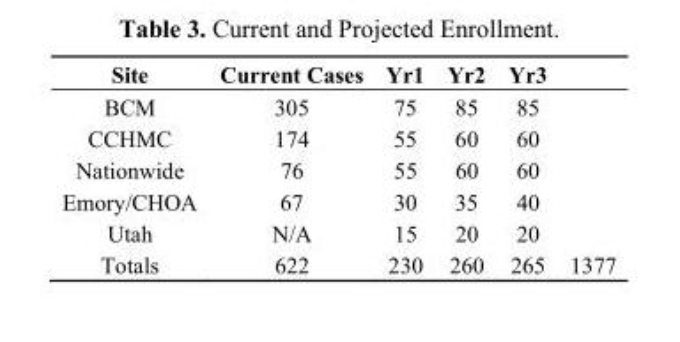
<table><thead><tr><td>Site</td><td>Current Cases</td><td>Yr1</td><td>Yr2</td><td>Yr3</td><td></td></tr></thead><tbody><tr><td>BCM</td><td>305</td><td>75</td><td>85</td><td>85</td><td></td></tr><tr><td>CCHMC</td><td>174</td><td>55</td><td>60</td><td>60</td><td></td></tr><tr><td>Nationwide</td><td>76</td><td>55</td><td>60</td><td>60</td><td></td></tr><tr><td>Emory/CHOA</td><td>67</td><td>30</td><td>35</td><td>40</td><td></td></tr><tr><td>Utah</td><td>N/A</td><td>15</td><td>20</td><td>20</td><td></td></tr><tr><td>Totals</td><td>622</td><td>230</td><td>260</td><td>265</td><td>1377</td></tr></tbody></table>